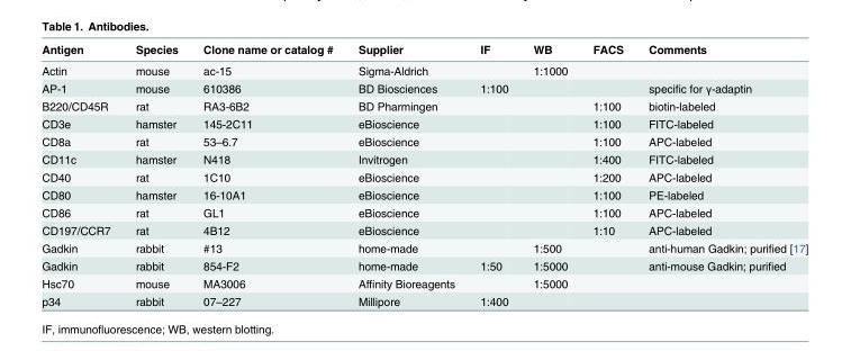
<table><thead><tr><td>Antigen</td><td>Species</td><td>Clone name or catalog #</td><td>Supplier</td><td>IF</td><td>WB</td><td>FACS</td><td>Comments</td></tr></thead><tbody><tr><td>Actin</td><td>mouse</td><td>ac-15</td><td>Sigma-Aldrich</td><td></td><td>1:1000</td><td></td><td></td></tr><tr><td>AP-1</td><td>mouse</td><td>610386</td><td>BD Biosciences</td><td>1:100</td><td></td><td></td><td>specific for γ-adaptin</td></tr><tr><td>B220/CD45R</td><td>rat</td><td>RA3-6B2</td><td>BD Pharmingen</td><td></td><td></td><td>1:100</td><td>biotin-labeled</td></tr><tr><td>CD3e</td><td>hamster</td><td>145-2C11</td><td>eBioscience</td><td></td><td></td><td>1:100</td><td>FITC-labeled</td></tr><tr><td>CD8a</td><td>rat</td><td>53–6.7</td><td>eBioscience</td><td></td><td></td><td>1:100</td><td>APC-labeled</td></tr><tr><td>CD11c</td><td>hamster</td><td>N418</td><td>Invitrogen</td><td></td><td></td><td>1:400</td><td>FITC-labeled</td></tr><tr><td>CD40</td><td>rat</td><td>1C10</td><td>eBioscience</td><td></td><td></td><td>1:200</td><td>APC-labeled</td></tr><tr><td>CD80</td><td>hamster</td><td>16-10A1</td><td>eBioscience</td><td></td><td></td><td>1:100</td><td>PE-labeled</td></tr><tr><td>CD86</td><td>rat</td><td>GL1</td><td>eBioscience</td><td></td><td></td><td>1:100</td><td>APC-labeled</td></tr><tr><td>CD197/CCR7</td><td>rat</td><td>4B12</td><td>eBioscience</td><td></td><td></td><td>1:10</td><td>APC-labeled</td></tr><tr><td>Gadkin</td><td>rabbit</td><td>#13</td><td>home-made</td><td></td><td>1:500</td><td></td><td>anti-human Gadkin; purified [17]</td></tr><tr><td>Gadkin</td><td>rabbit</td><td>854-F2</td><td>home-made</td><td>1:50</td><td>1:5000</td><td></td><td>anti-mouse Gadkin; purified</td></tr><tr><td>Hsc70</td><td>mouse</td><td>MA3006</td><td>Affinity Bioreagents</td><td></td><td>1:5000</td><td></td><td></td></tr><tr><td>p34</td><td>rabbit</td><td>07–227</td><td>Millipore</td><td>1:400</td><td></td><td></td><td></td></tr></tbody></table>